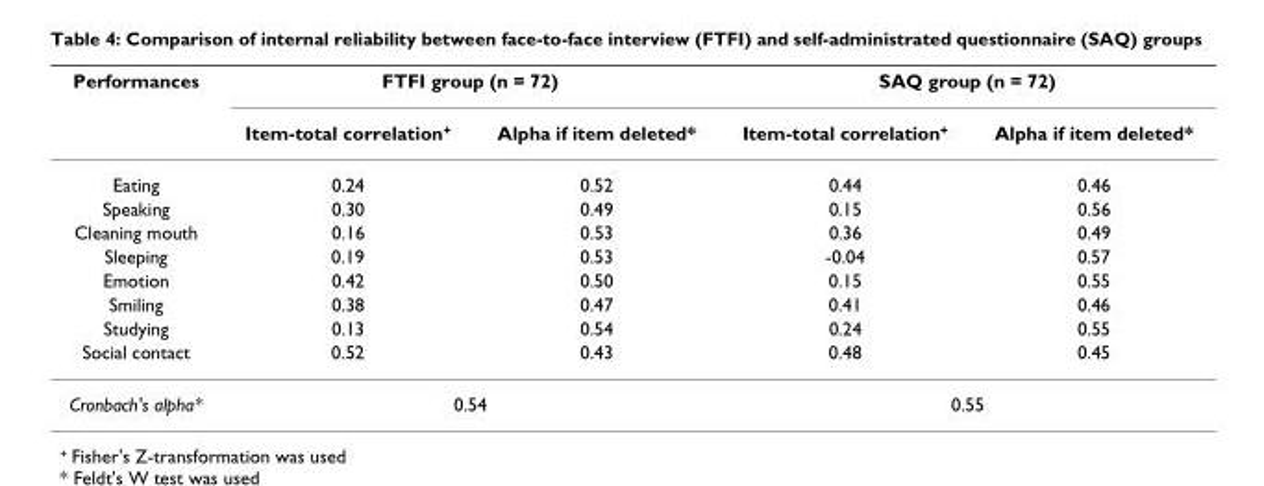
<table><thead><tr><td rowspan="2">Performances</td><td colspan="2">FTFI group (n = 72)</td><td colspan="2">SAQ group (n = 72)</td></tr><tr><td>Item-total correlation<sup>+</sup></td><td>Alpha if item deleted*</td><td>Item-total correlation<sup>+</sup></td><td>Alpha if item deleted*</td></tr></thead><tbody><tr><td>Eating</td><td>0.24</td><td>0.52</td><td>0.44</td><td>0.46</td></tr><tr><td>Speaking</td><td>0.30</td><td>0.49</td><td>0.15</td><td>0.56</td></tr><tr><td>Cleaning mouth</td><td>0.16</td><td>0.53</td><td>0.36</td><td>0.49</td></tr><tr><td>Sleeping</td><td>0.19</td><td>0.53</td><td>-0.04</td><td>0.57</td></tr><tr><td>Emotion</td><td>0.42</td><td>0.50</td><td>0.15</td><td>0.55</td></tr><tr><td>Smiling</td><td>0.38</td><td>0.47</td><td>0.41</td><td>0.46</td></tr><tr><td>Studying</td><td>0.13</td><td>0.54</td><td>0.24</td><td>0.55</td></tr><tr><td>Social contact</td><td>0.52</td><td>0.43</td><td>0.48</td><td>0.45</td></tr><tr><td>Cronbach&#x27;s alpha*</td><td colspan="2">0.54</td><td colspan="2">0.55</td></tr></tbody></table>